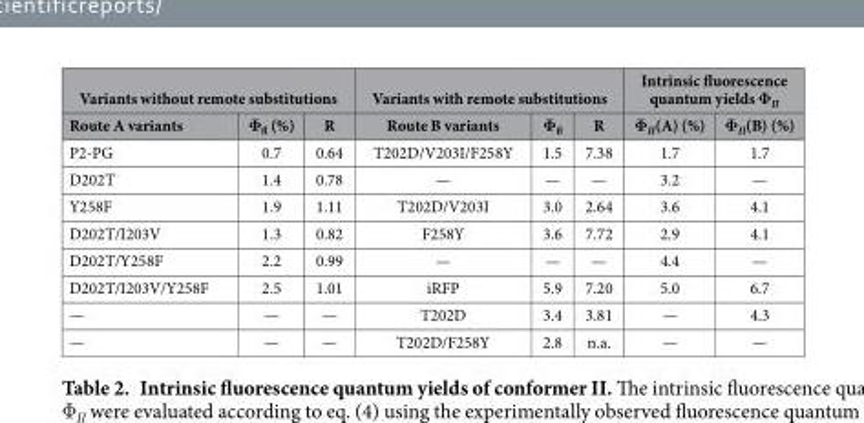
<table><thead><tr><td colspan="3">Variants without remote substitutions</td><td colspan="3">Variants with remote substitutions</td><td colspan="2">Intrinsic fluorescence quantum yields Φ<sub>II</sub></td></tr><tr><td>Route A variants</td><td>Φ<sub>fl</sub> (%)</td><td>R</td><td>Route B variants</td><td>Φ<sub>fl</sub></td><td>R</td><td>Φ<sub>II</sub>(A) (%)</td><td>Φ<sub>II</sub>(B) (%)</td></tr></thead><tbody><tr><td>P2-PG</td><td>0.7</td><td>0.64</td><td>T202D/V203I/F258Y</td><td>1.5</td><td>7.38</td><td>1.7</td><td>1.7</td></tr><tr><td>D202T</td><td>1.4</td><td>0.78</td><td>—</td><td>—</td><td>—</td><td>3.2</td><td>—</td></tr><tr><td>Y258F</td><td>1.9</td><td>1.11</td><td>T202D/V203I</td><td>3.0</td><td>2.64</td><td>3.6</td><td>4.1</td></tr><tr><td>D202T/I203V</td><td>1.3</td><td>0.82</td><td>F258Y</td><td>3.6</td><td>7.72</td><td>2.9</td><td>4.1</td></tr><tr><td>D202T/Y258F</td><td>2.2</td><td>0.99</td><td>—</td><td>—</td><td>—</td><td>4.4</td><td>—</td></tr><tr><td>D202T/I203V/Y258F</td><td>2.5</td><td>1.01</td><td>iRFP</td><td>5.9</td><td>7.20</td><td>5.0</td><td>6.7</td></tr><tr><td>—</td><td>—</td><td>—</td><td>T202D</td><td>3.4</td><td>3.81</td><td>—</td><td>4.3</td></tr><tr><td>—</td><td>—</td><td>—</td><td>T202D/F258Y</td><td>2.8</td><td>n.a.</td><td>—</td><td>—</td></tr></tbody></table>